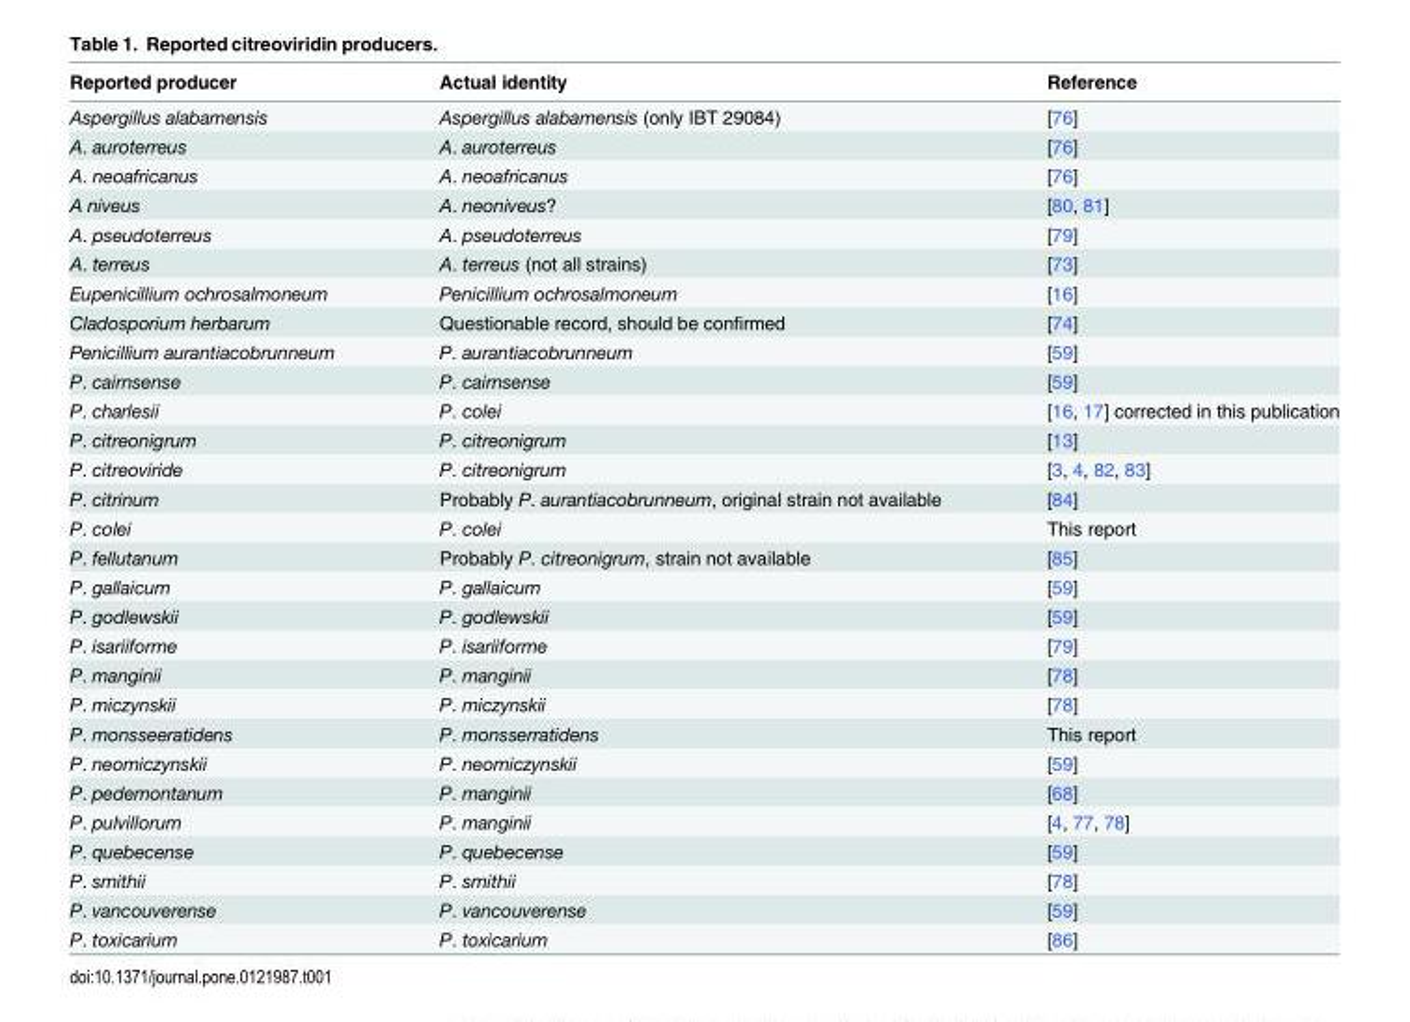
<table><thead><tr><td>Reported producer</td><td>Actual identity</td><td>Reference</td></tr></thead><tbody><tr><td>Aspergillus alabamensis</td><td>Aspergillus alabamensis (only IBT 29084)</td><td>[76]</td></tr><tr><td>A. auroterreus</td><td>A. auroterreus</td><td>[76]</td></tr><tr><td>A. neoafricanus</td><td>A. neoafricanus</td><td>[76]</td></tr><tr><td>A niveus</td><td>A. neoniveus?</td><td>[80, 81]</td></tr><tr><td>A. pseudoterreus</td><td>A. pseudoterreus</td><td>[79]</td></tr><tr><td>A. terreus</td><td>A. terreus (not all strains)</td><td>[73]</td></tr><tr><td>Eupenicillium ochrosalmoneum</td><td>Penicillium ochrosalmoneum</td><td>[16]</td></tr><tr><td>Cladosporium herbarum</td><td>Questionable record, should be confirmed</td><td>[74]</td></tr><tr><td>Penicillium aurantiacobrunneum</td><td>P. aurantiacobrunneum</td><td>[59]</td></tr><tr><td>P. cairnsense</td><td>P. cairnsense</td><td>[59]</td></tr><tr><td>P. charlesii</td><td>P. colei</td><td>[16, 17] corrected in this publication</td></tr><tr><td>P. citreonigrum</td><td>P. citreonigrum</td><td>[13]</td></tr><tr><td>P. citreoviride</td><td>P. citreonigrum</td><td>[3, 4, 82, 83]</td></tr><tr><td>P. citrinum</td><td>Probably P. aurantiacobrunneum, original strain not available</td><td>[84]</td></tr><tr><td>P. colei</td><td>P. colei</td><td>This report</td></tr><tr><td>P. fellutanum</td><td>Probably P. citreonigrum, strain not available</td><td>[85]</td></tr><tr><td>P. gallaicum</td><td>P. gallaicum</td><td>[59]</td></tr><tr><td>P. godlewskii</td><td>P. godlewskii</td><td>[59]</td></tr><tr><td>P. isariiforme</td><td>P. isariiforme</td><td>[79]</td></tr><tr><td>P. manginii</td><td>P. manginii</td><td>[78]</td></tr><tr><td>P. miczynskii</td><td>P. miczynskii</td><td>[78]</td></tr><tr><td>P. monsseeratidens</td><td>P. monsserratidens</td><td>This report</td></tr><tr><td>P. neomiczynskii</td><td>P. neomiczynskii</td><td>[59]</td></tr><tr><td>P. pedemontanum</td><td>P. manginii</td><td>[68]</td></tr><tr><td>P. pulvillorum</td><td>P. manginii</td><td>[4, 77, 78]</td></tr><tr><td>P. quebecense</td><td>P. quebecense</td><td>[59]</td></tr><tr><td>P. smithii</td><td>P. smithii</td><td>[78]</td></tr><tr><td>P. vancouverense</td><td>P. vancouverense</td><td>[59]</td></tr><tr><td>P. toxicarium</td><td>P. toxicarium</td><td>[86]</td></tr></tbody></table>